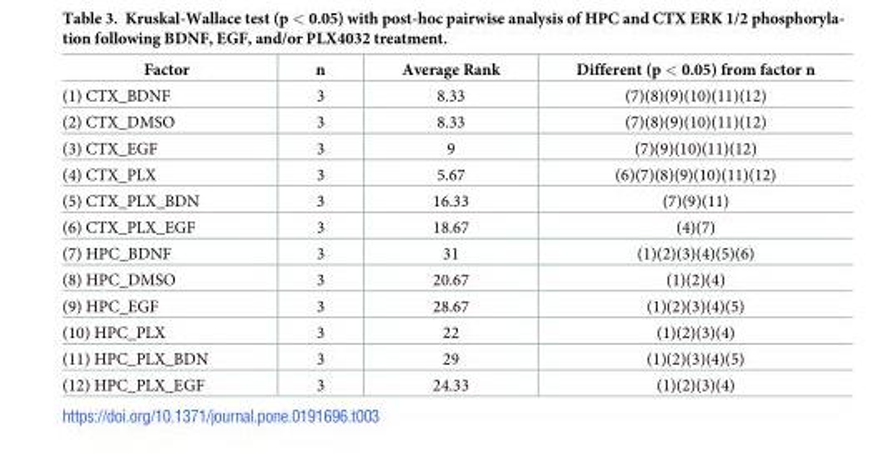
<table><thead><tr><td>Factor</td><td>n</td><td>Average Rank</td><td>Different (p &lt; 0.05) from factor n</td></tr></thead><tbody><tr><td>(1) CTX_BDNF</td><td>3</td><td>8.33</td><td>(7)(8)(9)(10)(11)(12)</td></tr><tr><td>(2) CTX_DMSO</td><td>3</td><td>8.33</td><td>(7)(8)(9)(10)(11)(12)</td></tr><tr><td>(3) CTX_EGF</td><td>3</td><td>9</td><td>(7)(9)(10)(11)(12)</td></tr><tr><td>(4) CTX_PLX</td><td>3</td><td>5.67</td><td>(6)(7)(8)(9)(10)(11)(12)</td></tr><tr><td>(5) CTX_PLX_BDN</td><td>3</td><td>16.33</td><td>(7)(9)(11)</td></tr><tr><td>(6) CTX_PLX_EGF</td><td>3</td><td>18.67</td><td>(4)(7)</td></tr><tr><td>(7) HPC_BDNF</td><td>3</td><td>31</td><td>(1)(2)(3)(4)(5)(6)</td></tr><tr><td>(8) HPC_DMSO</td><td>3</td><td>20.67</td><td>(1)(2)(4)</td></tr><tr><td>(9) HPC_EGF</td><td>3</td><td>28.67</td><td>(1)(2)(3)(4)(5)</td></tr><tr><td>(10) HPC_PLX</td><td>3</td><td>22</td><td>(1)(2)(3)(4)</td></tr><tr><td>(11) HPC_PLX_BDN</td><td>3</td><td>29</td><td>(1)(2)(3)(4)(5)</td></tr><tr><td>(12) HPC_PLX_EGF</td><td>3</td><td>24.33</td><td>(1)(2)(3)(4)</td></tr></tbody></table>